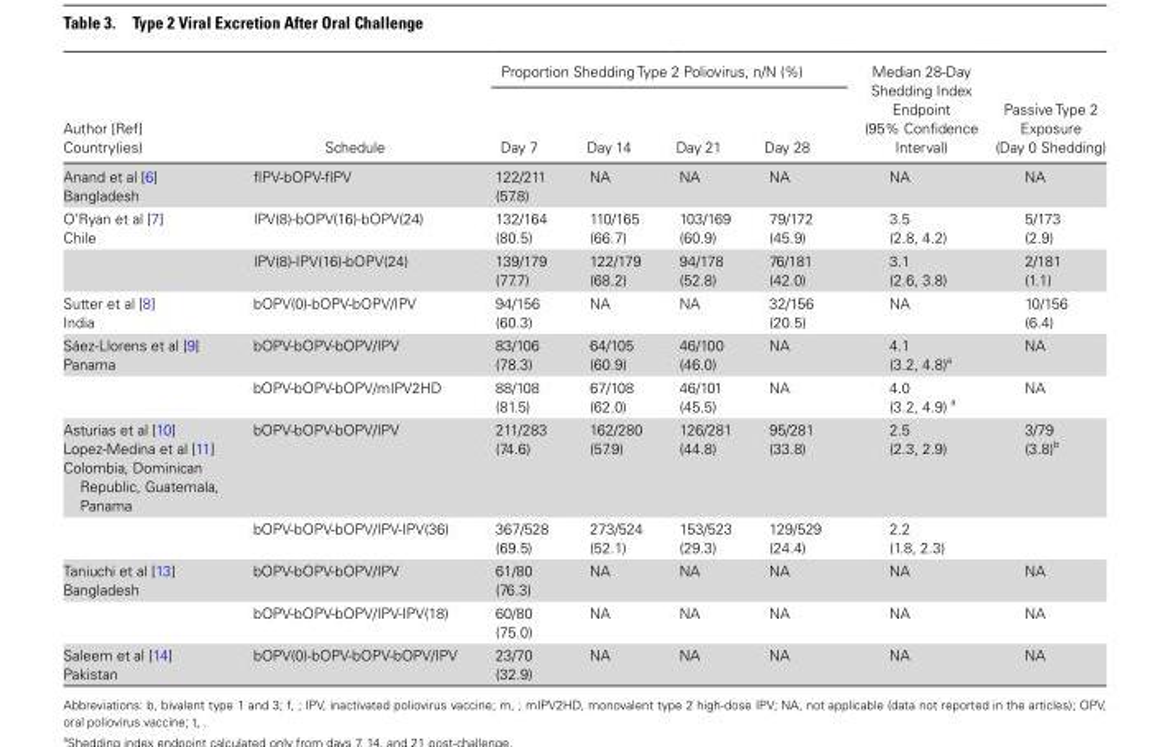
<table><thead><tr><td rowspan="2">Author [Ref] Country(ies)</td><td rowspan="2">Schedule</td><td colspan="4">Proportion Shedding Type 2 Poliovirus, n/N (%)</td><td rowspan="2">Median 28-Day Shedding Index Endpoint (95% Confidence Interval)</td><td rowspan="2">Passive Type 2 Exposure (Day 0 Shedding)</td></tr><tr><td>Day 7</td><td>Day 14</td><td>Day 21</td><td>Day 28</td></tr></thead><tbody><tr><td>Anand et al [6] Bangladesh</td><td>fIPV-bOPV-fIPV</td><td>122/211 (57.8)</td><td>NA</td><td>NA</td><td>NA</td><td>NA</td><td>NA</td></tr><tr><td rowspan="2">O’Ryan et al [7] Chile</td><td>IPV(8)-bOPV(16)-bOPV(24)</td><td>132/164 (80.5)</td><td>110/165 (66.7)</td><td>103/169 (60.9)</td><td>79/172 (45.9)</td><td>3.5 (2.8, 4.2)</td><td>5/173 (2.9)</td></tr><tr><td>IPV(8)-IPV(16)-bOPV(24)</td><td>139/179 (77.7)</td><td>122/179 (68.2)</td><td>94/178 (52.8)</td><td>76/181 (42.0)</td><td>3.1 (2.6, 3.8)</td><td>2/181 (1.1)</td></tr><tr><td>Sutter et al [8] India</td><td>bOPV(0)-bOPV-bOPV/IPV</td><td>94/156 (60.3)</td><td>NA</td><td>NA</td><td>32/156 (20.5)</td><td>NA</td><td>10/156 (6.4)</td></tr><tr><td rowspan="2">Sáez-Llorens et al [9] Panama</td><td>bOPV-bOPV-bOPV/IPV</td><td>83/106 (78.3)</td><td>64/105 (60.9)</td><td>46/100 (46.0)</td><td>NA</td><td>4.1 (3.2, 4.8)<sup>a</sup></td><td>NA</td></tr><tr><td>bOPV-bOPV-bOPV/mIPV2HD</td><td>88/108 (81.5)</td><td>67/108 (62.0)</td><td>46/101 (45.5)</td><td>NA</td><td>4.0 (3.2, 4.9) <sup>a</sup></td><td>NA</td></tr><tr><td rowspan="2">Asturias et al [10] Lopez-Medina et al [11] Colombia, Dominican Republic, Guatemala, Panama</td><td>bOPV-bOPV-bOPV/IPV</td><td>211/283 (74.6)</td><td>162/280 (57.9)</td><td>126/281 (44.8)</td><td>95/281 (33.8)</td><td>2.5 (2.3, 2.9)</td><td>3/79 (3.8)<sup>b</sup></td></tr><tr><td>bOPV-bOPV-bOPV/IPV-IPV(36)</td><td>367/528 (69.5)</td><td>273/524 (52.1)</td><td>153/523 (29.3)</td><td>129/529 (24.4)</td><td>2.2 (1.8, 2.3)</td><td></td></tr><tr><td rowspan="2">Taniuchi et al [13] Bangladesh</td><td>bOPV-bOPV-bOPV/IPV</td><td>61/80 (76.3)</td><td>NA</td><td>NA</td><td>NA</td><td>NA</td><td>NA</td></tr><tr><td>bOPV-bOPV-bOPV/IPV-IPV(18)</td><td>60/80 (75.0)</td><td>NA</td><td>NA</td><td>NA</td><td>NA</td><td>NA</td></tr><tr><td>Saleem et al [14] Pakistan</td><td>bOPV(0)-bOPV-bOPV-bOPV/IPV</td><td>23/70 (32.9)</td><td>NA</td><td>NA</td><td>NA</td><td>NA</td><td>NA</td></tr></tbody></table>